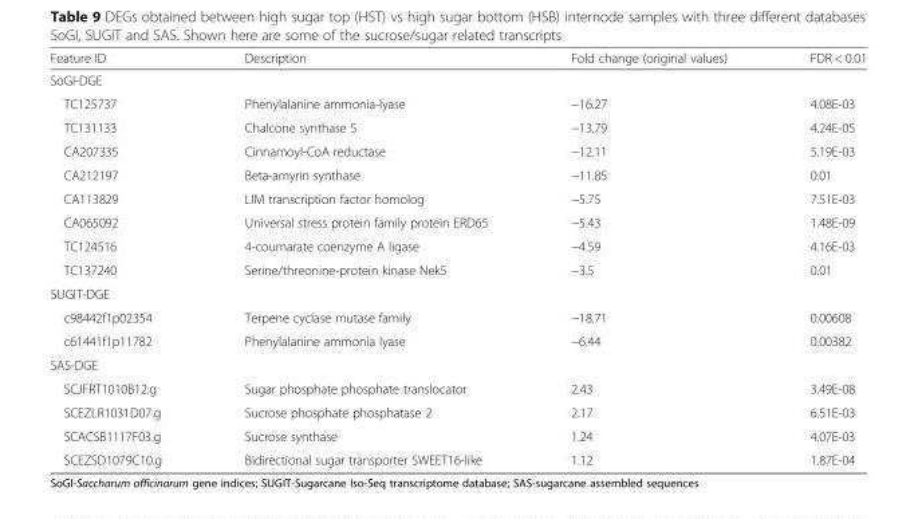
<table><thead><tr><td>Feature ID</td><td>Description</td><td>Fold change (original values)</td><td>FDR &lt; 0.01</td></tr></thead><tbody><tr><td colspan="4">SoGI-DGE</td></tr><tr><td>TC125737</td><td>Phenylalanine ammonia-lyase</td><td>−16.27</td><td>4.08E-03</td></tr><tr><td>TC131133</td><td>Chalcone synthase 5</td><td>−13.79</td><td>4.24E-05</td></tr><tr><td>CA207335</td><td>Cinnamoyl-CoA reductase</td><td>−12.11</td><td>5.19E-03</td></tr><tr><td>CA212197</td><td>Beta-amyrin synthase</td><td>−11.85</td><td>0.01</td></tr><tr><td>CA113829</td><td>LIM transcription factor homolog</td><td>−5.75</td><td>7.51E-03</td></tr><tr><td>CA065092</td><td>Universal stress protein family protein ERD65</td><td>−5.43</td><td>1.48E-09</td></tr><tr><td>TC124516</td><td>4-coumarate coenzyme A ligase</td><td>−4.59</td><td>4.16E-03</td></tr><tr><td>TC137240</td><td>Serine/threonine-protein kinase Nek5</td><td>−3.5</td><td>0.01</td></tr><tr><td colspan="4">SUGIT-DGE</td></tr><tr><td>c98442f1p02354</td><td>Terpene cyclase mutase family</td><td>−18.71</td><td>0.00608</td></tr><tr><td>c61441f1p11782</td><td>Phenylalanine ammonia lyase</td><td>−6.44</td><td>0.00382</td></tr><tr><td colspan="4">SAS-DGE</td></tr><tr><td>SCJFRT1010B12.g</td><td>Sugar phosphate phosphate translocator</td><td>2.43</td><td>3.49E-08</td></tr><tr><td>SCEZLR1031D07.g</td><td>Sucrose phosphate phosphatase 2</td><td>2.17</td><td>6.51E-03</td></tr><tr><td>SCACSB1117F03.g</td><td>Sucrose synthase</td><td>1.24</td><td>4.07E-03</td></tr><tr><td>SCEZSD1079C10.g</td><td>Bidirectional sugar transporter SWEET16-like</td><td>1.12</td><td>1.87E-04</td></tr></tbody></table>